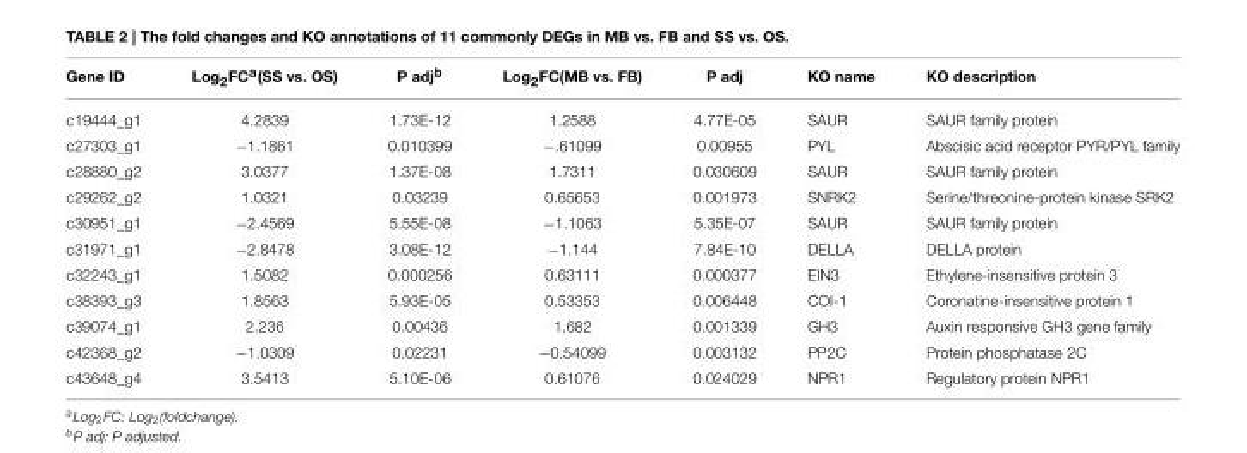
<table><thead><tr><td>Gene ID</td><td>Log<sub>2</sub>FC<sup>a</sup>(SS vs. OS)</td><td>P adj<sup>b</sup></td><td>Log<sub>2</sub>FC(MB vs. FB)</td><td>P adj</td><td>KO name</td><td>KO description</td></tr></thead><tbody><tr><td>c19444_g1</td><td>4.2839</td><td>1.73E-12</td><td>1.2588</td><td>4.77E-05</td><td>SAUR</td><td>SAUR family protein</td></tr><tr><td>c27303_g1</td><td>−1.1861</td><td>0.010399</td><td>−.61099</td><td>0.00955</td><td>PYL</td><td>Abscisic acid receptor PYR/PYL family</td></tr><tr><td>c28880_g2</td><td>3.0377</td><td>1.37E-08</td><td>1.7311</td><td>0.030609</td><td>SAUR</td><td>SAUR family protein</td></tr><tr><td>c29262_g2</td><td>1.0321</td><td>0.03239</td><td>0.65653</td><td>0.001973</td><td>SNRK2</td><td>Serine/threonine-protein kinase SRK2</td></tr><tr><td>c30951_g1</td><td>−2.4569</td><td>5.55E-08</td><td>−1.1063</td><td>5.35E-07</td><td>SAUR</td><td>SAUR family protein</td></tr><tr><td>c31971_g1</td><td>−2.8478</td><td>3.08E-12</td><td>−1.144</td><td>7.84E-10</td><td>DELLA</td><td>DELLA protein</td></tr><tr><td>c32243_g1</td><td>1.5082</td><td>0.000256</td><td>0.63111</td><td>0.000377</td><td>EIN3</td><td>Ethylene-insensitive protein 3</td></tr><tr><td>c38393_g3</td><td>1.8563</td><td>5.93E-05</td><td>0.53353</td><td>0.006448</td><td>COI-1</td><td>Coronatine-insensitive protein 1</td></tr><tr><td>c39074_g1</td><td>2.236</td><td>0.00436</td><td>1.682</td><td>0.001339</td><td>GH3</td><td>Auxin responsive GH3 gene family</td></tr><tr><td>c42368_g2</td><td>−1.0309</td><td>0.02231</td><td>−0.54099</td><td>0.003132</td><td>PP2C</td><td>Protein phosphatase 2C</td></tr><tr><td>c43648_g4</td><td>3.5413</td><td>5.10E-06</td><td>0.61076</td><td>0.024029</td><td>NPR1</td><td>Regulatory protein NPR1</td></tr></tbody></table>